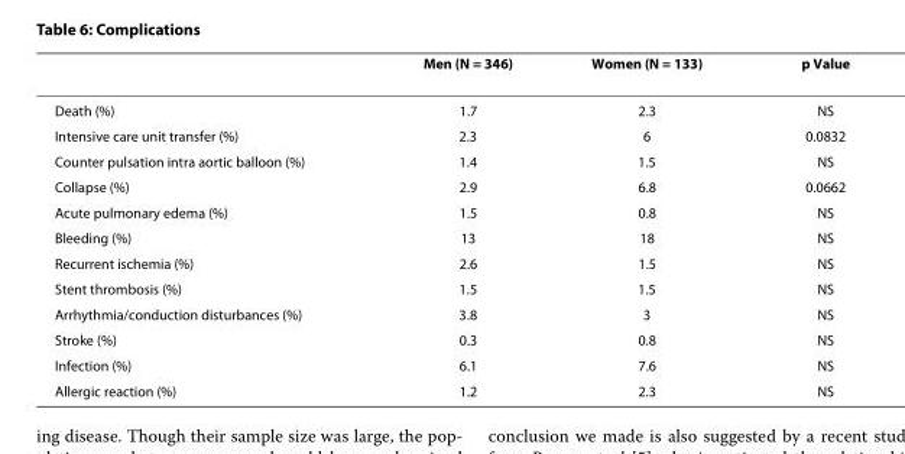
<table><thead><tr><td></td><td>Men (N = 346)</td><td>Women (N = 133)</td><td>p Value</td></tr></thead><tbody><tr><td>Death (%)</td><td>1.7</td><td>2.3</td><td>NS</td></tr><tr><td>Intensive care unit transfer (%)</td><td>2.3</td><td>6</td><td>0.0832</td></tr><tr><td>Counter pulsation intra aortic balloon (%)</td><td>1.4</td><td>1.5</td><td>NS</td></tr><tr><td>Collapse (%)</td><td>2.9</td><td>6.8</td><td>0.0662</td></tr><tr><td>Acute pulmonary edema (%)</td><td>1.5</td><td>0.8</td><td>NS</td></tr><tr><td>Bleeding (%)</td><td>13</td><td>18</td><td>NS</td></tr><tr><td>Recurrent ischemia (%)</td><td>2.6</td><td>1.5</td><td>NS</td></tr><tr><td>Stent thrombosis (%)</td><td>1.5</td><td>1.5</td><td>NS</td></tr><tr><td>Arrhythmia/conduction disturbances (%)</td><td>3.8</td><td>3</td><td>NS</td></tr><tr><td>Stroke (%)</td><td>0.3</td><td>0.8</td><td>NS</td></tr><tr><td>Infection (%)</td><td>6.1</td><td>7.6</td><td>NS</td></tr><tr><td>Allergic reaction (%)</td><td>1.2</td><td>2.3</td><td>NS</td></tr></tbody></table>